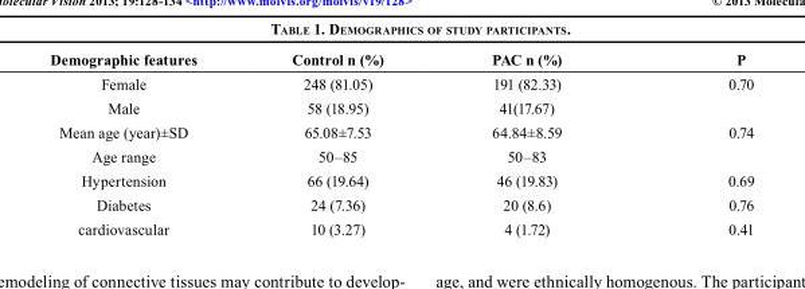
<table><thead><tr><td>Demographic features</td><td>Control n (%)</td><td>PAC n (%)</td><td>P</td></tr></thead><tbody><tr><td>Female</td><td>248 (81.05)</td><td>191 (82.33)</td><td>0.70</td></tr><tr><td>Male</td><td>58 (18.95)</td><td>41(17.67)</td><td></td></tr><tr><td>Mean age (year)±SD</td><td>65.08±7.53</td><td>64.84±8.59</td><td>0.74</td></tr><tr><td>Age range</td><td>50–85</td><td>50–83</td><td></td></tr><tr><td>Hypertension</td><td>66 (19.64)</td><td>46 (19.83)</td><td>0.69</td></tr><tr><td>Diabetes</td><td>24 (7.36)</td><td>20 (8.6)</td><td>0.76</td></tr><tr><td>cardiovascular</td><td>10 (3.27)</td><td>4 (1.72)</td><td>0.41</td></tr></tbody></table>